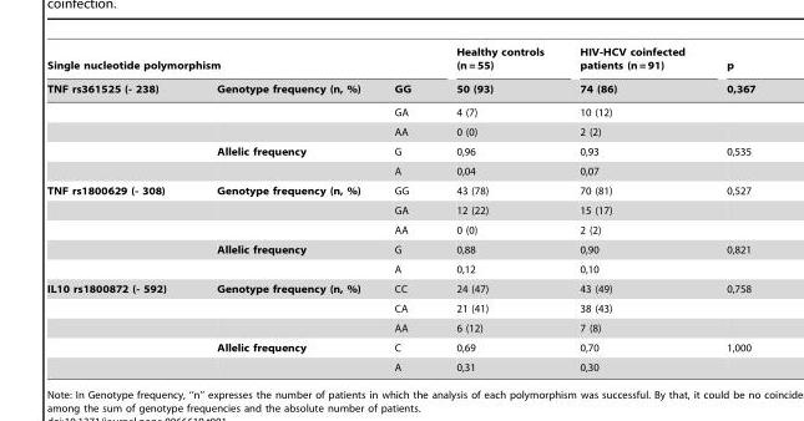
<table><thead><tr><td colspan="3">Single nucleotide polymorphism</td><td rowspan="2">Healthy controls (n = 55) 50 (93)</td><td rowspan="2">HIV-HCV coinfected patients (n = 91) 74 (86)</td><td rowspan="2">p 0,367</td></tr><tr><td>TNF rs361525 (- 238)</td><td>Genotype frequency (n, %)</td><td>GG</td></tr></thead><tbody><tr><td></td><td></td><td>GA</td><td>4 (7)</td><td>10 (12)</td><td></td></tr><tr><td></td><td></td><td>AA</td><td>0 (0)</td><td>2 (2)</td><td></td></tr><tr><td></td><td>Allelic frequency</td><td>G</td><td>0,96</td><td>0,93</td><td>0,535</td></tr><tr><td></td><td></td><td>A</td><td>0,04</td><td>0,07</td><td></td></tr><tr><td rowspan="5">TNF rs1800629 (- 308)</td><td>Genotype frequency (n, %)</td><td>GG</td><td>43 (78)</td><td>70 (81)</td><td>0,527</td></tr><tr><td></td><td>GA</td><td>12 (22)</td><td>15 (17)</td><td></td></tr><tr><td></td><td>AA</td><td>0 (0)</td><td>2 (2)</td><td></td></tr><tr><td>Allelic frequency</td><td>G</td><td>0,88</td><td>0,90</td><td>0,821</td></tr><tr><td></td><td>A</td><td>0,12</td><td>0,10</td><td></td></tr><tr><td rowspan="5">IL10 rs1800872 (- 592)</td><td>Genotype frequency (n, %)</td><td>CC</td><td>24 (47)</td><td>43 (49)</td><td>0,758</td></tr><tr><td></td><td>CA</td><td>21 (41)</td><td>38 (43)</td><td></td></tr><tr><td></td><td>AA</td><td>6 (12)</td><td>7 (8)</td><td></td></tr><tr><td>Allelic frequency</td><td>C</td><td>0,69</td><td>0,70</td><td>1,000</td></tr><tr><td></td><td>A</td><td>0,31</td><td>0,30</td><td></td></tr></tbody></table>